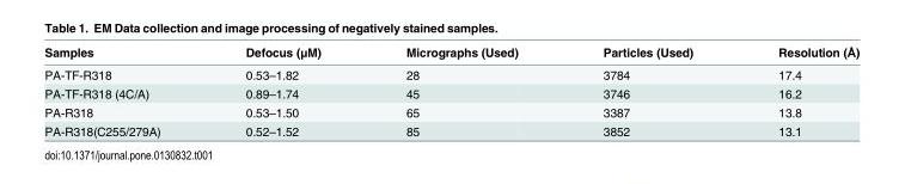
<table><thead><tr><td>Samples</td><td>Defocus (μM)</td><td>Micrographs (Used)</td><td>Particles (Used)</td><td>Resolution (Å)</td></tr></thead><tbody><tr><td>PA-TF-R318</td><td>0.53–1.82</td><td>28</td><td>3784</td><td>17.4</td></tr><tr><td>PA-TF-R318 (4C/A)</td><td>0.89–1.74</td><td>45</td><td>3746</td><td>16.2</td></tr><tr><td>PA-R318</td><td>0.53–1.50</td><td>65</td><td>3387</td><td>13.8</td></tr><tr><td>PA-R318(C255/279A)</td><td>0.52–1.52</td><td>85</td><td>3852</td><td>13.1</td></tr></tbody></table>